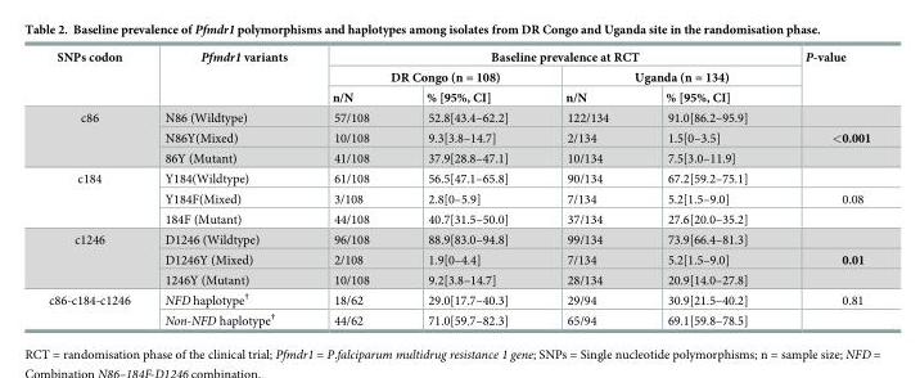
<table><thead><tr><td rowspan="3">SNPs codon</td><td rowspan="3">Pfmdr1 variants</td><td colspan="4">Baseline prevalence at RCT</td><td rowspan="3">P-value</td></tr><tr><td colspan="2">DR Congo (n = 108)</td><td colspan="2">Uganda (n = 134)</td></tr><tr><td>n/N</td><td>% [95%, CI]</td><td>n/N</td><td>% [95%, CI]</td></tr></thead><tbody><tr><td rowspan="3">c86</td><td>N86 (Wildtype)</td><td>57/108</td><td>52.8[43.4–62.2]</td><td>122/134</td><td>91.0[86.2–95.9]</td><td></td></tr><tr><td>N86Y(Mixed)</td><td>10/108</td><td>9.3[3.8–14.7]</td><td>2/134</td><td>1.5[0–3.5]</td><td>&lt;0.001</td></tr><tr><td>86Y (Mutant)</td><td>41/108</td><td>37.9[28.8–47.1]</td><td>10/134</td><td>7.5[3.0–11.9]</td><td></td></tr><tr><td rowspan="3">c184</td><td>Y184(Wildtype)</td><td>61/108</td><td>56.5[47.1–65.8]</td><td>90/134</td><td>67.2[59.2–75.1]</td><td></td></tr><tr><td>Y184F(Mixed)</td><td>3/108</td><td>2.8[0–5.9]</td><td>7/134</td><td>5.2[1.5–9.0]</td><td>0.08</td></tr><tr><td>184F (Mutant)</td><td>44/108</td><td>40.7[31.5–50.0]</td><td>37/134</td><td>27.6[20.0–35.2]</td><td></td></tr><tr><td rowspan="3">c1246</td><td>D1246 (Wildtype)</td><td>96/108</td><td>88.9[83.0–94.8]</td><td>99/134</td><td>73.9[66.4–81.3]</td><td></td></tr><tr><td>D1246Y (Mixed)</td><td>2/108</td><td>1.9[0–4.4]</td><td>7/134</td><td>5.2[1.5–9.0]</td><td>0.01</td></tr><tr><td>1246Y (Mutant)</td><td>10/108</td><td>9.2[3.8–14.7]</td><td>28/134</td><td>20.9[14.0–27.8]</td><td></td></tr><tr><td rowspan="2">c86-c184-c1246</td><td>NFD haplotype<sup>†</sup></td><td>18/62</td><td>29.0[17.7–40.3]</td><td>29/94</td><td>30.9[21.5–40.2]</td><td>0.81</td></tr><tr><td>Non-NFD haplotype<sup>†</sup></td><td>44/62</td><td>71.0[59.7–82.3]</td><td>65/94</td><td>69.1[59.8–78.5]</td><td></td></tr></tbody></table>